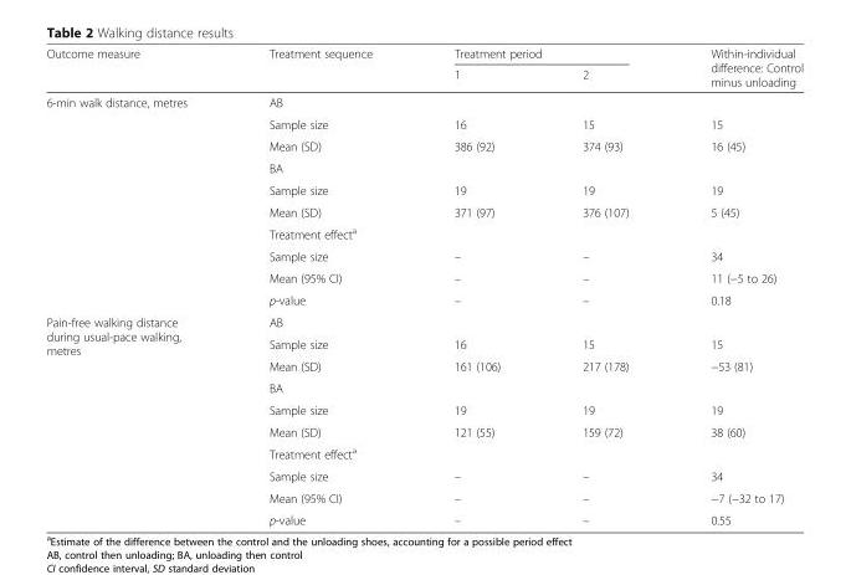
<table><thead><tr><td rowspan="2">Outcome measure</td><td rowspan="2">Treatment sequence</td><td colspan="2">Treatment period</td><td rowspan="2">Within-individual difference: Control minus unloading</td></tr><tr><td>1</td><td>2</td></tr></thead><tbody><tr><td rowspan="10">6-min walk distance, metres</td><td>AB</td><td></td><td></td><td></td></tr><tr><td>Sample size</td><td>16</td><td>15</td><td>15</td></tr><tr><td>Mean (SD)</td><td>386 (92)</td><td>374 (93)</td><td>16 (45)</td></tr><tr><td>BA</td><td></td><td></td><td></td></tr><tr><td>Sample size</td><td>19</td><td>19</td><td>19</td></tr><tr><td>Mean (SD)</td><td>371 (97)</td><td>376 (107)</td><td>5 (45)</td></tr><tr><td>Treatment effect<sup>a</sup></td><td></td><td></td><td></td></tr><tr><td>Sample size</td><td>–</td><td>–</td><td>34</td></tr><tr><td>Mean (95% CI)</td><td>–</td><td>–</td><td>11 (−5 to 26)</td></tr><tr><td>p-value</td><td>–</td><td>–</td><td>0.18</td></tr><tr><td rowspan="10">Pain-free walking distance during usual-pace walking, metres</td><td>AB</td><td></td><td></td><td></td></tr><tr><td>Sample size</td><td>16</td><td>15</td><td>15</td></tr><tr><td>Mean (SD)</td><td>161 (106)</td><td>217 (178)</td><td>−53 (81)</td></tr><tr><td>BA</td><td></td><td></td><td></td></tr><tr><td>Sample size</td><td>19</td><td>19</td><td>19</td></tr><tr><td>Mean (SD)</td><td>121 (55)</td><td>159 (72)</td><td>38 (60)</td></tr><tr><td>Treatment effect<sup>a</sup></td><td></td><td></td><td></td></tr><tr><td>Sample size</td><td>–</td><td>–</td><td>34</td></tr><tr><td>Mean (95% CI)</td><td>–</td><td>–</td><td>−7 (−32 to 17)</td></tr><tr><td>p-value</td><td>–</td><td>–</td><td>0.55</td></tr></tbody></table>